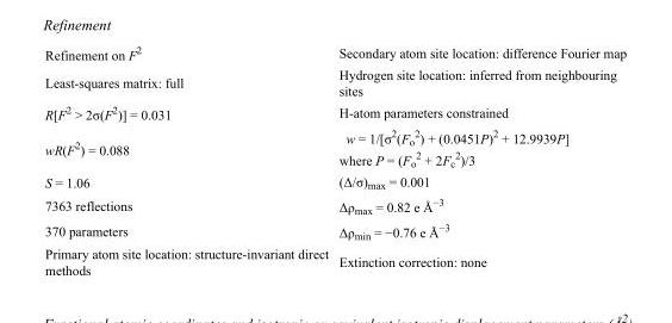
<table><tbody><tr><td>Refinement on F<sup>2</sup></td><td>Secondary atom site location: difference Fourier map</td></tr><tr><td>Least-squares matrix: full</td><td>Hydrogen site location: inferred from neighbouring sites</td></tr><tr><td>R[F<sup>2</sup> &gt; 2σ(F<sup>2</sup>)] = 0.031</td><td>H-atom parameters constrained</td></tr><tr><td>wR(F<sup>2</sup>) = 0.088</td><td>w = 1/[σ<sup>2</sup>(F<sub>o</sub> <sup>2</sup>) + (0.0451P)<sup>2</sup> + 12.9939P] where P = (F<sub>o</sub> <sup>2</sup> + 2F<sub>c</sub> <sup>2</sup>)/3</td></tr><tr><td>S = 1.06</td><td>(Δ/σ)<sub>max</sub> = 0.001</td></tr><tr><td>7363 reflections</td><td>Δρ<sub>max</sub> = 0.82 e Å<sup>−3</sup></td></tr><tr><td>370 parameters</td><td>Δρ<sub>min</sub> = −0.76 e Å<sup>−3</sup></td></tr><tr><td>Primary atom site location: structure-invariant direct methods</td><td>Extinction correction: none</td></tr></tbody></table>